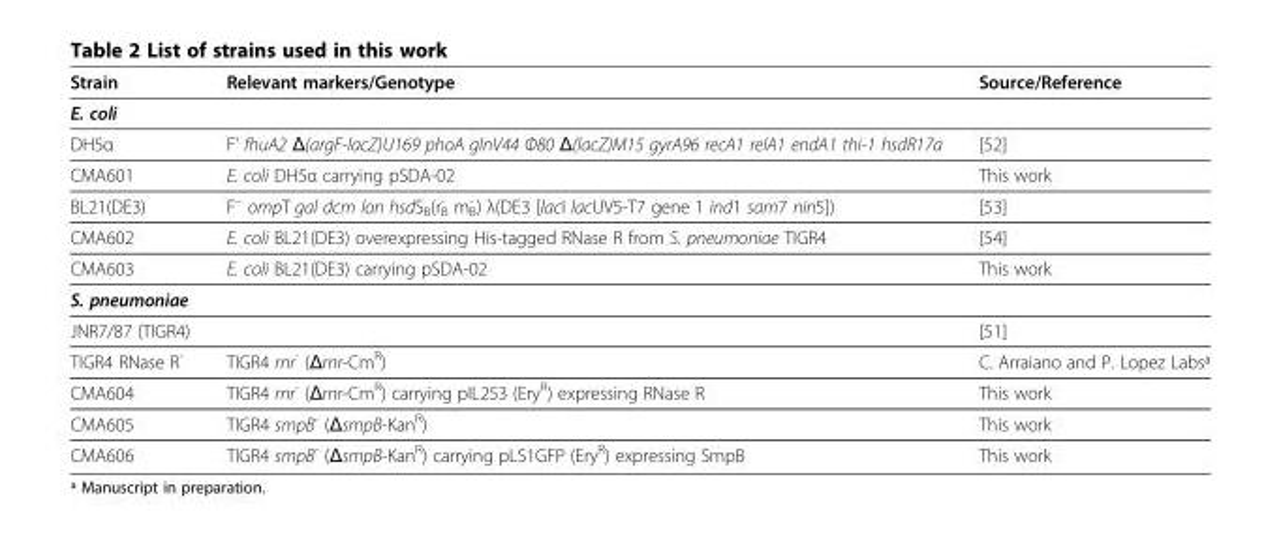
<table><thead><tr><td>Strain</td><td>Relevant markers/Genotype</td><td>Source/Reference</td></tr></thead><tbody><tr><td colspan="3">E. coli</td></tr><tr><td>DH5α</td><td>F&#x27; fhuA2 Δ(argF-lacZ)U169 phoA glnV44 Φ80 Δ(lacZ)M15 gyrA96 recA1 relA1 endA1 thi-1 hsdR17a</td><td>[52]</td></tr><tr><td>CMA601</td><td>E. coli DH5α carrying pSDA-02</td><td>This work</td></tr><tr><td>BL21(DE3)</td><td>F<sup>–</sup> ompT gal dcm lon hsdS<sub>B</sub>(r<sub>B</sub> <sup>-</sup> m<sub>B</sub> <sup>-</sup> ) λ(DE3 [lacI lacUV5-T7 gene 1 ind1 sam7 nin5])</td><td>[53]</td></tr><tr><td>CMA602</td><td>E. coli BL21(DE3) overexpressing His-tagged RNase R from S. pneumoniae TIGR4</td><td>[54]</td></tr><tr><td>CMA603</td><td>E. coli BL21(DE3) carrying pSDA-02</td><td>This work</td></tr><tr><td colspan="3">S. pneumoniae</td></tr><tr><td>JNR7/87 (TIGR4)</td><td></td><td>[51]</td></tr><tr><td>TIGR4 RNase R<sup>-</sup></td><td>TIGR4 rnr<sup>-</sup> (Δrnr-Cm<sup>R</sup>)</td><td>C. Arraiano and P. Lopez Labs<sup>ª</sup></td></tr><tr><td>CMA604</td><td>TIGR4 rnr<sup>-</sup> (Δrnr-Cm<sup>R</sup>) carrying pIL253 (Ery<sup>R</sup>) expressing RNase R</td><td>This work</td></tr><tr><td>CMA605</td><td>TIGR4 smpB<sup>-</sup> (ΔsmpB-Kan<sup>R</sup>)</td><td>This work</td></tr><tr><td>CMA606</td><td>TIGR4 smpB<sup>-</sup> (ΔsmpB-Kan<sup>R</sup>) carrying pLS1GFP (Ery<sup>R</sup>) expressing SmpB</td><td>This work</td></tr></tbody></table>